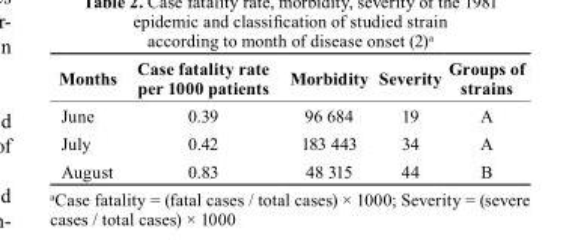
<table><thead><tr><td>Months</td><td>case fatality rate per 1000 patients</td><td>Morbidity</td><td>severity</td><td>Groups of strains</td></tr></thead><tbody><tr><td>June</td><td>0.39</td><td>96 684</td><td>19</td><td>A</td></tr><tr><td>July</td><td>0.42</td><td>183 443</td><td>34</td><td>A</td></tr><tr><td>August</td><td>0.83</td><td>48 315</td><td>44</td><td>B</td></tr></tbody></table>